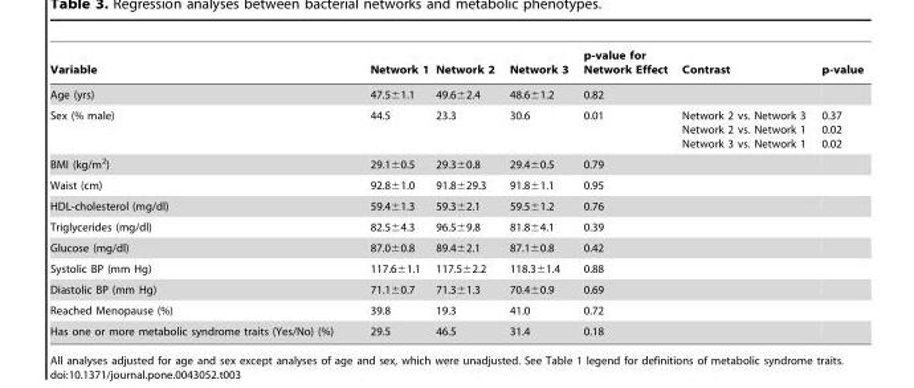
<table><thead><tr><td>Variable</td><td>Network 1</td><td>Network 2</td><td>Network 3</td><td>p-value for Network Effect</td><td>Contrast</td><td>p-value</td></tr></thead><tbody><tr><td>Age (yrs)</td><td>47.5±1.1</td><td>49.6±2.4</td><td>48.6±1.2</td><td>0.82</td><td></td><td></td></tr><tr><td>Sex (% male)</td><td>44.5</td><td>23.3</td><td>30.6</td><td>0.01</td><td>Network 2 vs. Network 3 Network 2 vs. Network 1 Network 3 vs. Network 1</td><td>0.37 0.02 0.02</td></tr><tr><td>BMI (kg/m<sup>2</sup>)</td><td>29.1±0.5</td><td>29.3±0.8</td><td>29.4±0.5</td><td>0.79</td><td></td><td></td></tr><tr><td>Waist (cm)</td><td>92.8±1.0</td><td>91.8±29.3</td><td>91.8±1.1</td><td>0.95</td><td></td><td></td></tr><tr><td>HDL-cholesterol (mg/dl)</td><td>59.4±1.3</td><td>59.3±2.1</td><td>59.5±1.2</td><td>0.76</td><td></td><td></td></tr><tr><td>Triglycerides (mg/dl)</td><td>82.5±4.3</td><td>96.5±9.8</td><td>81.8±4.1</td><td>0.39</td><td></td><td></td></tr><tr><td>Glucose (mg/dl)</td><td>87.0±0.8</td><td>89.4±2.1</td><td>87.1±0.8</td><td>0.42</td><td></td><td></td></tr><tr><td>Systolic BP (mm Hg)</td><td>117.6±1.1</td><td>117.5±2.2</td><td>118.3±1.4</td><td>0.88</td><td></td><td></td></tr><tr><td>Diastolic BP (mm Hg)</td><td>71.1±0.7</td><td>71.3±1.3</td><td>70.4±0.9</td><td>0.69</td><td></td><td></td></tr><tr><td>Reached Menopause (%)</td><td>39.8</td><td>19.3</td><td>41.0</td><td>0.72</td><td></td><td></td></tr><tr><td>Has one or more metabolic syndrome traits (Yes/No) (%)</td><td>29.5</td><td>46.5</td><td>31.4</td><td>0.18</td><td></td><td></td></tr></tbody></table>